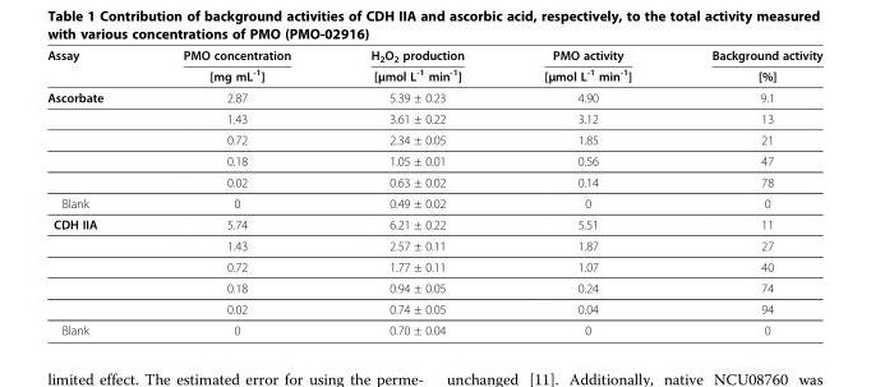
<table><thead><tr><td rowspan="2">Assay</td><td rowspan="2">PMO concentration [mg mL<sup>-1</sup>]</td><td rowspan="2">H<sub>2</sub>O<sub>2</sub> production [μmol L<sup>-1</sup> min<sup>-1</sup>]</td><td rowspan="2">PMO activity [μmol L<sup>-1</sup> min<sup>-1</sup>]</td><td rowspan="2">Background activity [%]</td></tr><tr></tr></thead><tbody><tr><td rowspan="5">Ascorbate</td><td>2.87</td><td>5.39 ± 0.23</td><td>4.90</td><td>9.1</td></tr><tr><td>1.43</td><td>3.61 ± 0.22</td><td>3.12</td><td>13</td></tr><tr><td>0.72</td><td>2.34 ± 0.05</td><td>1.85</td><td>21</td></tr><tr><td>0.18</td><td>1.05 ± 0.01</td><td>0.56</td><td>47</td></tr><tr><td>0.02</td><td>0.63 ± 0.02</td><td>0.14</td><td>78</td></tr><tr><td>Blank</td><td>0</td><td>0.49 ± 0.02</td><td>0</td><td>0</td></tr><tr><td rowspan="5">CDH IIA</td><td>5.74</td><td>6.21 ± 0.22</td><td>5.51</td><td>11</td></tr><tr><td>1.43</td><td>2.57 ± 0.11</td><td>1.87</td><td>27</td></tr><tr><td>0.72</td><td>1.77 ± 0.11</td><td>1.07</td><td>40</td></tr><tr><td>0.18</td><td>0.94 ± 0.05</td><td>0.24</td><td>74</td></tr><tr><td>0.02</td><td>0.74 ± 0.05</td><td>0.04</td><td>94</td></tr><tr><td>Blank</td><td>0</td><td>0.70 ± 0.04</td><td>0</td><td>0</td></tr></tbody></table>